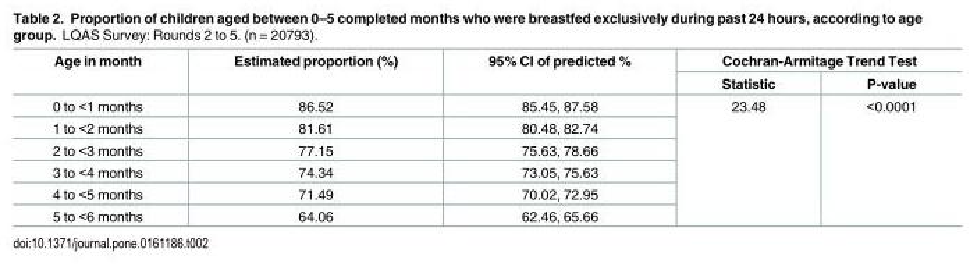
<table><thead><tr><td rowspan="2">Age in month</td><td rowspan="2">Estimated proportion (%)</td><td rowspan="2">95% CI of predicted %</td><td colspan="2">Cochran-Armitage Trend Test</td></tr><tr><td>Statistic</td><td>P-value</td></tr></thead><tbody><tr><td>0 to &lt;1 months</td><td>86.52</td><td>85.45, 87.58</td><td rowspan="6">23.48</td><td rowspan="6">&lt;0.0001</td></tr><tr><td>1 to &lt;2 months</td><td>81.61</td><td>80.48, 82.74</td></tr><tr><td>2 to &lt;3 months</td><td>77.15</td><td>75.63, 78.66</td></tr><tr><td>3 to &lt;4 months</td><td>74.34</td><td>73.05, 75.63</td></tr><tr><td>4 to &lt;5 months</td><td>71.49</td><td>70.02, 72.95</td></tr><tr><td>5 to &lt;6 months</td><td>64.06</td><td>62.46, 65.66</td></tr></tbody></table>